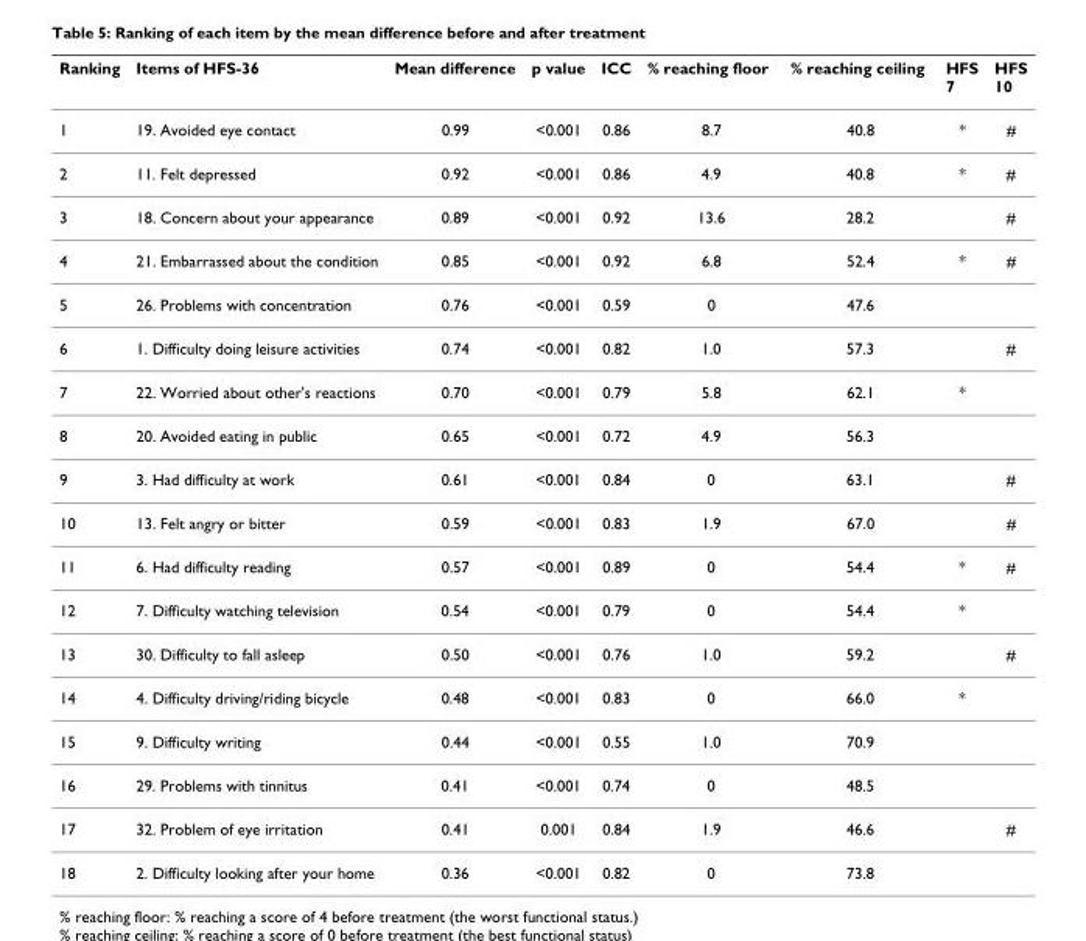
<table><thead><tr><td>Ranking</td><td>Items of HFS-36</td><td>Mean difference</td><td>p value</td><td>ICC</td><td>% reaching floor</td><td>% reaching ceiling</td><td>HFS 7</td><td>HFS 10</td></tr></thead><tbody><tr><td>1</td><td>19. Avoided eye contact</td><td>0.99</td><td>&lt;0.001</td><td>0.86</td><td>8.7</td><td>40.8</td><td>*</td><td>#</td></tr><tr><td>2</td><td>11. Felt depressed</td><td>0.92</td><td>&lt;0.001</td><td>0.86</td><td>4.9</td><td>40.8</td><td>*</td><td>#</td></tr><tr><td>3</td><td>18. Concern about your appearance</td><td>0.89</td><td>&lt;0.001</td><td>0.92</td><td>13.6</td><td>28.2</td><td></td><td>#</td></tr><tr><td>4</td><td>21. Embarrassed about the condition</td><td>0.85</td><td>&lt;0.001</td><td>0.92</td><td>6.8</td><td>52.4</td><td>*</td><td>#</td></tr><tr><td>5</td><td>26. Problems with concentration</td><td>0.76</td><td>&lt;0.001</td><td>0.59</td><td>0</td><td>47.6</td><td></td><td></td></tr><tr><td>6</td><td>1. Difficulty doing leisure activities</td><td>0.74</td><td>&lt;0.001</td><td>0.82</td><td>1.0</td><td>57.3</td><td></td><td>#</td></tr><tr><td>7</td><td>22. Worried about other&#x27;s reactions</td><td>0.70</td><td>&lt;0.001</td><td>0.79</td><td>5.8</td><td>62.1</td><td>*</td><td></td></tr><tr><td>8</td><td>20. Avoided eating in public</td><td>0.65</td><td>&lt;0.001</td><td>0.72</td><td>4.9</td><td>56.3</td><td></td><td></td></tr><tr><td>9</td><td>3. Had difficulty at work</td><td>0.61</td><td>&lt;0.001</td><td>0.84</td><td>0</td><td>63.1</td><td></td><td>#</td></tr><tr><td>10</td><td>13. Felt angry or bitter</td><td>0.59</td><td>&lt;0.001</td><td>0.83</td><td>1.9</td><td>67.0</td><td></td><td>#</td></tr><tr><td>11</td><td>6. Had difficulty reading</td><td>0.57</td><td>&lt;0.001</td><td>0.89</td><td>0</td><td>54.4</td><td>*</td><td>#</td></tr><tr><td>12</td><td>7. Difficulty watching television</td><td>0.54</td><td>&lt;0.001</td><td>0.79</td><td>0</td><td>54.4</td><td>*</td><td></td></tr><tr><td>13</td><td>30. Difficulty to fall asleep</td><td>0.50</td><td>&lt;0.001</td><td>0.76</td><td>1.0</td><td>59.2</td><td></td><td>#</td></tr><tr><td>14</td><td>4. Difficulty driving/riding bicycle</td><td>0.48</td><td>&lt;0.001</td><td>0.83</td><td>0</td><td>66.0</td><td>*</td><td></td></tr><tr><td>15</td><td>9. Difficulty writing</td><td>0.44</td><td>&lt;0.001</td><td>0.55</td><td>1.0</td><td>70.9</td><td></td><td></td></tr><tr><td>16</td><td>29. Problems with tinnitus</td><td>0.41</td><td>&lt;0.001</td><td>0.74</td><td>0</td><td>48.5</td><td></td><td></td></tr><tr><td>17</td><td>32. Problem of eye irritation</td><td>0.41</td><td>0.001</td><td>0.84</td><td>1.9</td><td>46.6</td><td></td><td>#</td></tr><tr><td>18</td><td>2. Difficulty looking after your home</td><td>0.36</td><td>&lt;0.001</td><td>0.82</td><td>0</td><td>73.8</td><td></td><td></td></tr></tbody></table>